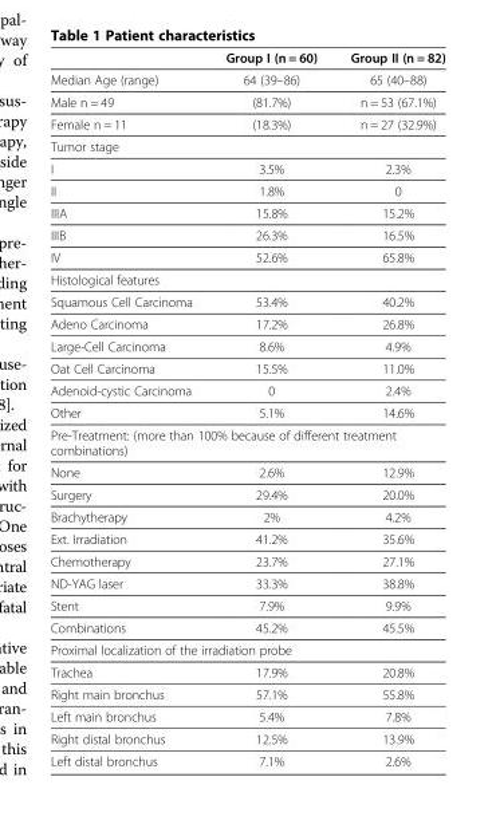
<table><thead><tr><td></td><td>Group I (n = 60)</td><td>Group II (n = 82)</td></tr></thead><tbody><tr><td>Median Age (range)</td><td>64 (39–86)</td><td>65 (40–88)</td></tr><tr><td>Male n = 49</td><td>(81.7%)</td><td>n = 53 (67.1%)</td></tr><tr><td>Female n = 11</td><td>(18.3%)</td><td>n = 27 (32.9%)</td></tr><tr><td colspan="3">Tumor stage</td></tr><tr><td>I</td><td>3.5%</td><td>2.3%</td></tr><tr><td>II</td><td>1.8%</td><td>0</td></tr><tr><td>IIIA</td><td>15.8%</td><td>15.2%</td></tr><tr><td>IIIB</td><td>26.3%</td><td>16.5%</td></tr><tr><td>IV</td><td>52.6%</td><td>65.8%</td></tr><tr><td colspan="3">Histological features</td></tr><tr><td>Squamous Cell Carcinoma</td><td>53.4%</td><td>40.2%</td></tr><tr><td>Adeno Carcinoma</td><td>17.2%</td><td>26.8%</td></tr><tr><td>Large-Cell Carcinoma</td><td>8.6%</td><td>4.9%</td></tr><tr><td>Oat Cell Carcinoma</td><td>15.5%</td><td>11.0%</td></tr><tr><td>Adenoid-cystic Carcinoma</td><td>0</td><td>2.4%</td></tr><tr><td>Other</td><td>5.1%</td><td>14.6%</td></tr><tr><td colspan="3">Pre-Treatment: (more than 100% because of different treatment combinations)</td></tr><tr><td>None</td><td>2.6%</td><td>12.9%</td></tr><tr><td>Surgery</td><td>29.4%</td><td>20.0%</td></tr><tr><td>Brachytherapy</td><td>2%</td><td>4.2%</td></tr><tr><td>Ext. Irradiation</td><td>41.2%</td><td>35.6%</td></tr><tr><td>Chemotherapy</td><td>23.7%</td><td>27.1%</td></tr><tr><td>ND-YAG laser</td><td>33.3%</td><td>38.8%</td></tr><tr><td>Stent</td><td>7.9%</td><td>9.9%</td></tr><tr><td>Combinations</td><td>45.2%</td><td>45.5%</td></tr><tr><td colspan="3">Proximal localization of the irradiation probe</td></tr><tr><td>Trachea</td><td>17.9%</td><td>20.8%</td></tr><tr><td>Right main bronchus</td><td>57.1%</td><td>55.8%</td></tr><tr><td>Left main bronchus</td><td>5.4%</td><td>7.8%</td></tr><tr><td>Right distal bronchus</td><td>12.5%</td><td>13.9%</td></tr><tr><td>Left distal bronchus</td><td>7.1%</td><td>2.6%</td></tr></tbody></table>